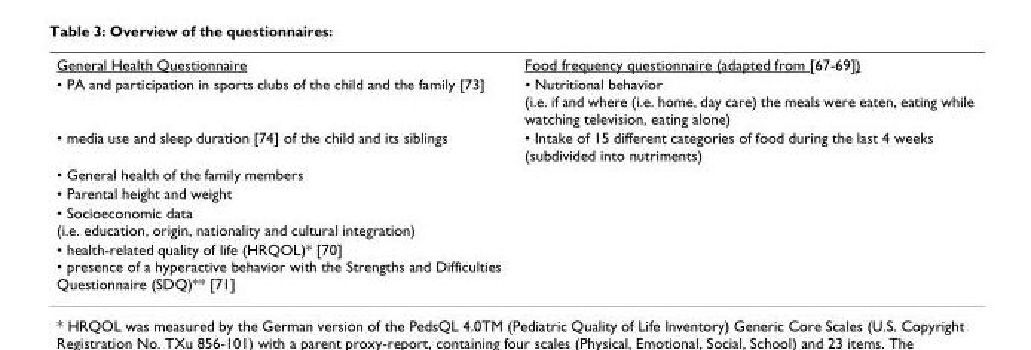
<table><tbody><tr><td>General Health Questionnaire</td><td>Food frequency questionnaire (adapted from [67-69])</td></tr><tr><td>• PA and participation in sports clubs of the child and the family [73]</td><td>• Nutritional behavior (i.e. if and where (i.e. home, day care) the meals were eaten, eating while watching television, eating alone)</td></tr><tr><td>• media use and sleep duration [74] of the child and its siblings</td><td>• Intake of 15 different categories of food during the last 4 weeks (subdivided into nutriments)</td></tr><tr><td colspan="2">• General health of the family members</td></tr><tr><td colspan="2">• Parental height and weight</td></tr><tr><td colspan="2">• Socioeconomic data (i.e. education, origin, nationality and cultural integration)</td></tr><tr><td>• health-related quality of life (HRQOL)* [70] • presence of a hyperactive behavior with the Strengths and Difficulties Questionnaire (SDQ)** [71]</td><td></td></tr></tbody></table>